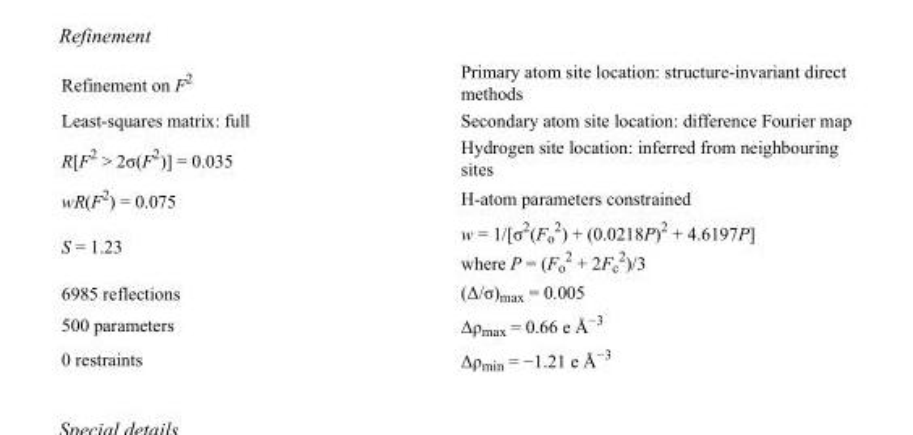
<table><tbody><tr><td>Refinement on F<sup>2</sup></td><td>Primary atom site location: structure-invariant direct methods</td></tr><tr><td>Least-squares matrix: full</td><td>Secondary atom site location: difference Fourier map</td></tr><tr><td>R[F<sup>2</sup> &gt; 2σ(F<sup>2</sup>)] = 0.035</td><td>Hydrogen site location: inferred from neighbouring sites</td></tr><tr><td>wR(F<sup>2</sup>) = 0.075</td><td>H-atom parameters constrained</td></tr><tr><td>S = 1.23</td><td>w = 1/[σ<sup>2</sup>(F<sub>o</sub> <sup>2</sup>) + (0.0218P)<sup>2</sup> + 4.6197P] where P = (F<sub>o</sub> <sup>2</sup> + 2F<sub>c</sub> <sup>2</sup>)/3</td></tr><tr><td>6985 reflections</td><td>(Δ/σ)<sub>max</sub> = 0.005</td></tr><tr><td>500 parameters</td><td>Δρ<sub>max</sub> = 0.66 e Å<sup>−3</sup></td></tr><tr><td>0 restraints</td><td>Δρ<sub>min</sub> = −1.21 e Å<sup>−3</sup></td></tr></tbody></table>